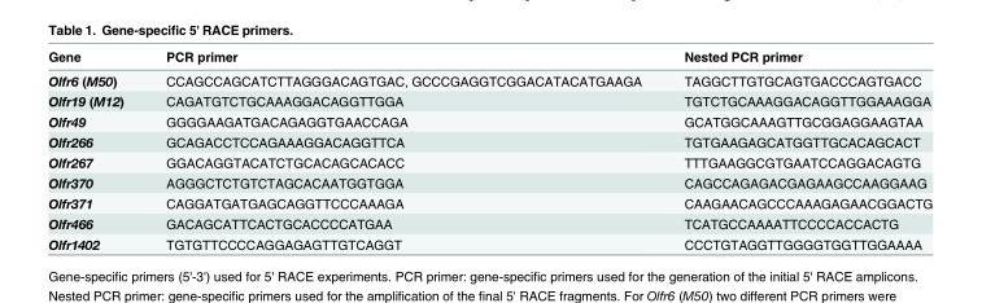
<table><thead><tr><td>Gene</td><td>PCR primer</td><td>Nested PCR primer</td></tr></thead><tbody><tr><td>Olfr6 (M50)</td><td>CCAGCCAGCATCTTAGGGACAGTGAC, GCCCGAGGTCGGACATACATGAAGA</td><td>TAGGCTTGTGCAGTGACCCAGTGACC</td></tr><tr><td>Olfr19 (M12)</td><td>CAGATGTCTGCAAAGGACAGGTTGGA</td><td>TGTCTGCAAAGGACAGGTTGGAAAGGA</td></tr><tr><td>Olfr49</td><td>GGGGAAGATGACAGAGGTGAACCAGA</td><td>GCATGGCAAAGTTGCGGAGGAAGTAA</td></tr><tr><td>Olfr266</td><td>GCAGACCTCCAGAAAGGACAGGTTCA</td><td>TGTGAAGAGCATGGTTGCACAGCACT</td></tr><tr><td>Olfr267</td><td>GGACAGGTACATCTGCACAGCACACC</td><td>TTTGAAGGCGTGAATCCAGGACAGTG</td></tr><tr><td>Olfr370</td><td>AGGGCTCTGTCTAGCACAATGGTGGA</td><td>CAGCCAGAGACGAGAAGCCAAGGAAG</td></tr><tr><td>Olfr371</td><td>CAGGATGATGAGCAGGTTCCCAAAGA</td><td>CAAGAACAGCCCAAAGAGAACGGACTG</td></tr><tr><td>Olfr466</td><td>GACAGCATTCACTGCACCCCATGAA</td><td>TCATGCCAAAATTCCCCACCACTG</td></tr><tr><td>Olfr1402</td><td>TGTGTTCCCCAGGAGAGTTGTCAGGT</td><td>CCCTGTAGGTTGGGGTGGTTGGAAAA</td></tr></tbody></table>